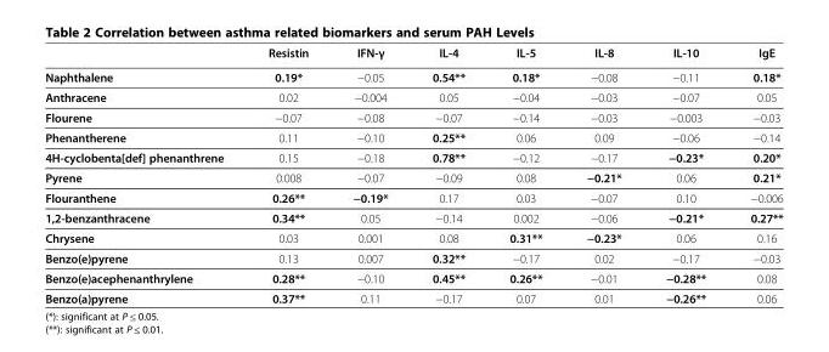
<table><thead><tr><td></td><td>Resistin</td><td>IFN-γ</td><td>IL-4</td><td>IL-5</td><td>IL-8</td><td>IL-10</td><td>IgE</td></tr></thead><tbody><tr><td>Naphthalene</td><td>0.19*</td><td>−0.05</td><td>0.54**</td><td>0.18*</td><td>−0.08</td><td>−0.11</td><td>0.18*</td></tr><tr><td>Anthracene</td><td>0.02</td><td>−0.004</td><td>0.05</td><td>−0.04</td><td>−0.03</td><td>−0.07</td><td>0.05</td></tr><tr><td>Flourene</td><td>−0.07</td><td>−0.08</td><td>−0.07</td><td>−0.14</td><td>−0.03</td><td>−0.003</td><td>−0.03</td></tr><tr><td>Phenantherene</td><td>0.11</td><td>−0.10</td><td>0.25**</td><td>0.06</td><td>0.09</td><td>−0.06</td><td>−0.14</td></tr><tr><td>4H-cyclobenta[def] phenanthrene</td><td>0.15</td><td>−0.18</td><td>0.78**</td><td>−0.12</td><td>−0.17</td><td>−0.23*</td><td>0.20*</td></tr><tr><td>Pyrene</td><td>0.008</td><td>−0.07</td><td>−0.09</td><td>0.08</td><td>−0.21*</td><td>0.06</td><td>0.21*</td></tr><tr><td>Flouranthene</td><td>0.26**</td><td>−0.19*</td><td>0.17</td><td>0.03</td><td>−0.07</td><td>0.10</td><td>−0.006</td></tr><tr><td>1,2-benzanthracene</td><td>0.34**</td><td>0.05</td><td>−0.14</td><td>0.002</td><td>−0.06</td><td>−0.21*</td><td>0.27**</td></tr><tr><td>Chrysene</td><td>0.03</td><td>0.001</td><td>0.08</td><td>0.31**</td><td>−0.23*</td><td>0.06</td><td>0.16</td></tr><tr><td>Benzo(e)pyrene</td><td>0.13</td><td>0.007</td><td>0.32**</td><td>−0.17</td><td>0.02</td><td>−0.17</td><td>−0.03</td></tr><tr><td>Benzo(e)acephenanthrylene</td><td>0.28**</td><td>−0.10</td><td>0.45**</td><td>0.26**</td><td>−0.01</td><td>−0.28**</td><td>0.08</td></tr><tr><td>Benzo(a)pyrene</td><td>0.37**</td><td>0.11</td><td>−0.17</td><td>0.07</td><td>0.01</td><td>−0.26**</td><td>0.06</td></tr></tbody></table>